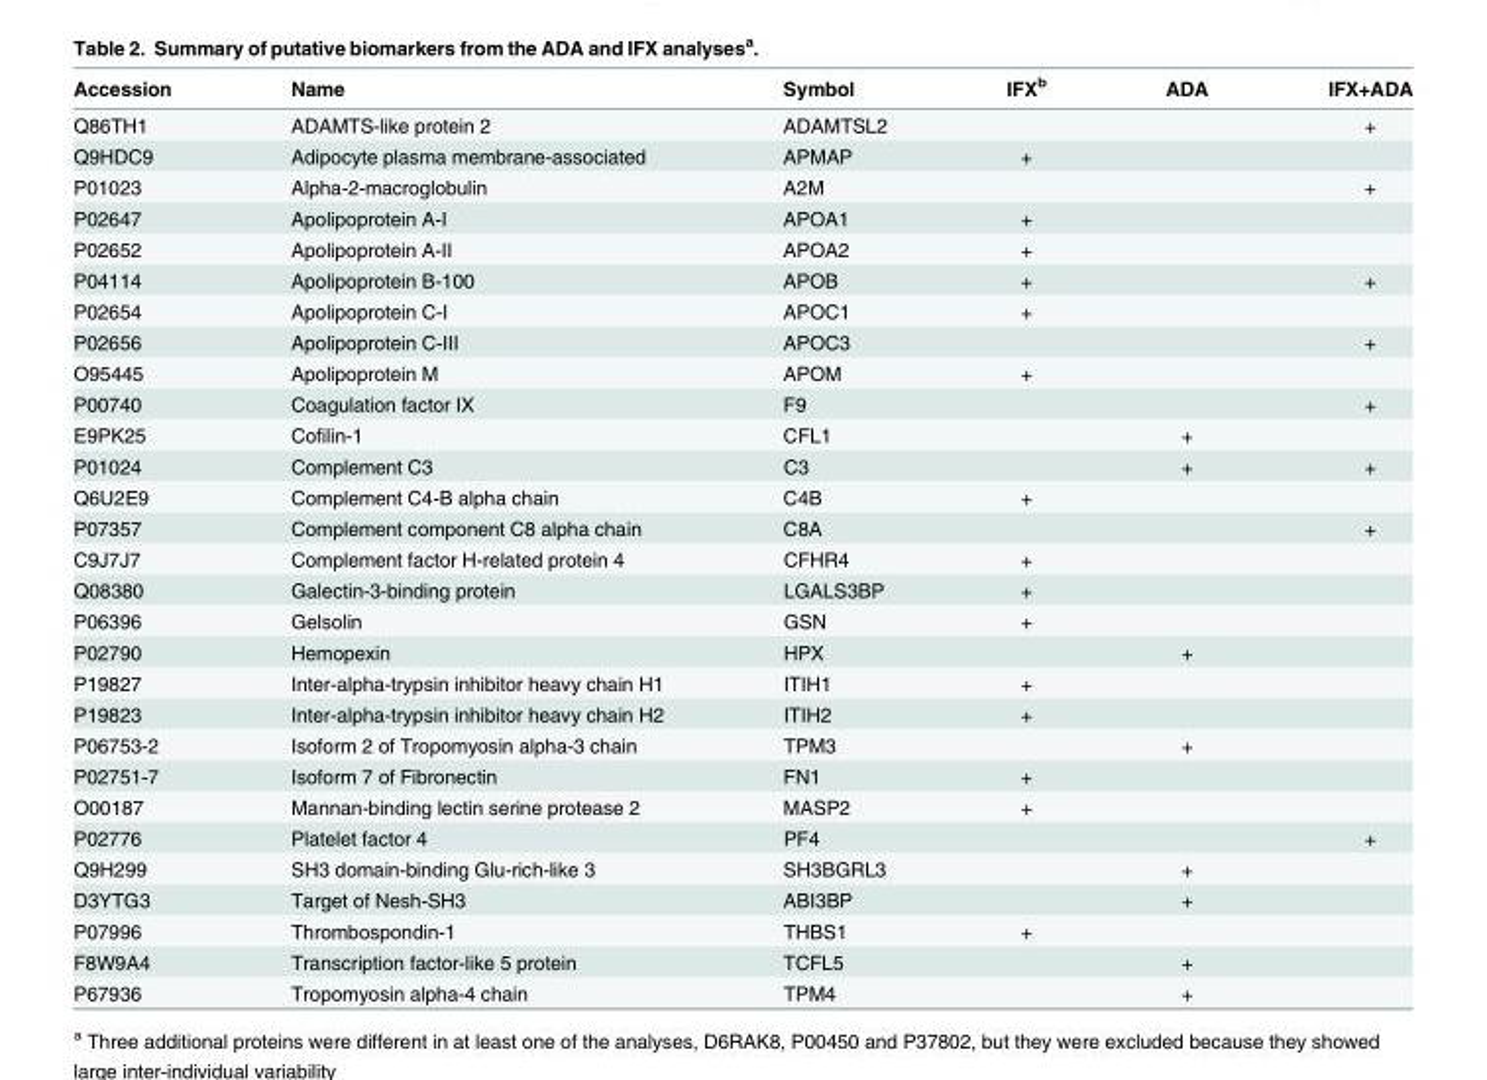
<table><thead><tr><td>Accession</td><td>Name</td><td>Symbol</td><td>IFX<sup>b</sup></td><td>ADA</td><td>IFX+ADA</td></tr></thead><tbody><tr><td>Q86TH1</td><td>ADAMTS-like protein 2</td><td>ADAMTSL2</td><td></td><td></td><td>+</td></tr><tr><td>Q9HDC9</td><td>Adipocyte plasma membrane-associated</td><td>APMAP</td><td>+</td><td></td><td></td></tr><tr><td>P01023</td><td>Alpha-2-macroglobulin</td><td>A2M</td><td></td><td></td><td>+</td></tr><tr><td>P02647</td><td>Apolipoprotein A-I</td><td>APOA1</td><td>+</td><td></td><td></td></tr><tr><td>P02652</td><td>Apolipoprotein A-II</td><td>APOA2</td><td>+</td><td></td><td></td></tr><tr><td>P04114</td><td>Apolipoprotein B-100</td><td>APOB</td><td>+</td><td></td><td>+</td></tr><tr><td>P02654</td><td>Apolipoprotein C-I</td><td>APOC1</td><td>+</td><td></td><td></td></tr><tr><td>P02656</td><td>Apolipoprotein C-III</td><td>APOC3</td><td></td><td></td><td>+</td></tr><tr><td>O95445</td><td>Apolipoprotein M</td><td>APOM</td><td>+</td><td></td><td></td></tr><tr><td>P00740</td><td>Coagulation factor IX</td><td>F9</td><td></td><td></td><td>+</td></tr><tr><td>E9PK25</td><td>Cofilin-1</td><td>CFL1</td><td></td><td>+</td><td></td></tr><tr><td>P01024</td><td>Complement C3</td><td>C3</td><td></td><td>+</td><td>+</td></tr><tr><td>Q6U2E9</td><td>Complement C4-B alpha chain</td><td>C4B</td><td>+</td><td></td><td></td></tr><tr><td>P07357</td><td>Complement component C8 alpha chain</td><td>C8A</td><td></td><td></td><td>+</td></tr><tr><td>C9J7J7</td><td>Complement factor H-related protein 4</td><td>CFHR4</td><td>+</td><td></td><td></td></tr><tr><td>Q08380</td><td>Galectin-3-binding protein</td><td>LGALS3BP</td><td>+</td><td></td><td></td></tr><tr><td>P06396</td><td>Gelsolin</td><td>GSN</td><td>+</td><td></td><td></td></tr><tr><td>P02790</td><td>Hemopexin</td><td>HPX</td><td></td><td>+</td><td></td></tr><tr><td>P19827</td><td>Inter-alpha-trypsin inhibitor heavy chain H1</td><td>ITIH1</td><td>+</td><td></td><td></td></tr><tr><td>P19823</td><td>Inter-alpha-trypsin inhibitor heavy chain H2</td><td>ITIH2</td><td>+</td><td></td><td></td></tr><tr><td>P06753-2</td><td>Isoform 2 of Tropomyosin alpha-3 chain</td><td>TPM3</td><td></td><td>+</td><td></td></tr><tr><td>P02751-7</td><td>Isoform 7 of Fibronectin</td><td>FN1</td><td>+</td><td></td><td></td></tr><tr><td>O00187</td><td>Mannan-binding lectin serine protease 2</td><td>MASP2</td><td>+</td><td></td><td></td></tr><tr><td>P02776</td><td>Platelet factor 4</td><td>PF4</td><td></td><td></td><td>+</td></tr><tr><td>Q9H299</td><td>SH3 domain-binding Glu-rich-like 3</td><td>SH3BGRL3</td><td></td><td>+</td><td></td></tr><tr><td>D3YTG3</td><td>Target of Nesh-SH3</td><td>ABI3BP</td><td></td><td>+</td><td></td></tr><tr><td>P07996</td><td>Thrombospondin-1</td><td>THBS1</td><td>+</td><td></td><td></td></tr><tr><td>F8W9A4</td><td>Transcription factor-like 5 protein</td><td>TCFL5</td><td></td><td>+</td><td></td></tr><tr><td>P67936</td><td>Tropomyosin alpha-4 chain</td><td>TPM4</td><td></td><td>+</td><td></td></tr></tbody></table>